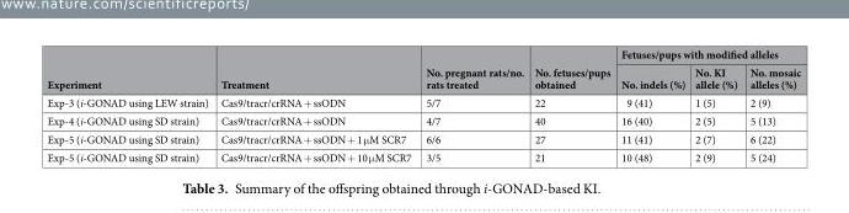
<table><thead><tr><td rowspan="2">Experiment</td><td rowspan="2">Treatment</td><td rowspan="2">No. pregnant rats/no. rats treated</td><td rowspan="2">No. fetuses/pups obtained</td><td colspan="3">Fetuses/pups with modified alleles</td></tr><tr><td>No. indels (%)</td><td>No. KI allele (%)</td><td>No. mosaic alleles (%)</td></tr></thead><tbody><tr><td>Exp-3 (i-GONAD using LEW strain)</td><td>Cas9/tracr/crRNA + ssODN</td><td>5/7</td><td>22</td><td>9 (41)</td><td>1 (5)</td><td>2 (9)</td></tr><tr><td>Exp-4 (i-GONAD using SD strain)</td><td>Cas9/tracr/crRNA + ssODN</td><td>4/7</td><td>40</td><td>16 (40)</td><td>2 (5)</td><td>5 (13)</td></tr><tr><td>Exp-5 (i-GONAD using SD strain)</td><td>Cas9/tracr/crRNA + ssODN + 1 μM SCR7</td><td>6/6</td><td>27</td><td>11 (41)</td><td>2 (7)</td><td>6 (22)</td></tr><tr><td>Exp-5 (i-GONAD using SD strain)</td><td>Cas9/tracr/crRNA + ssODN + 10 μM SCR7</td><td>3/5</td><td>21</td><td>10 (48)</td><td>2 (9)</td><td>5 (24)</td></tr></tbody></table>